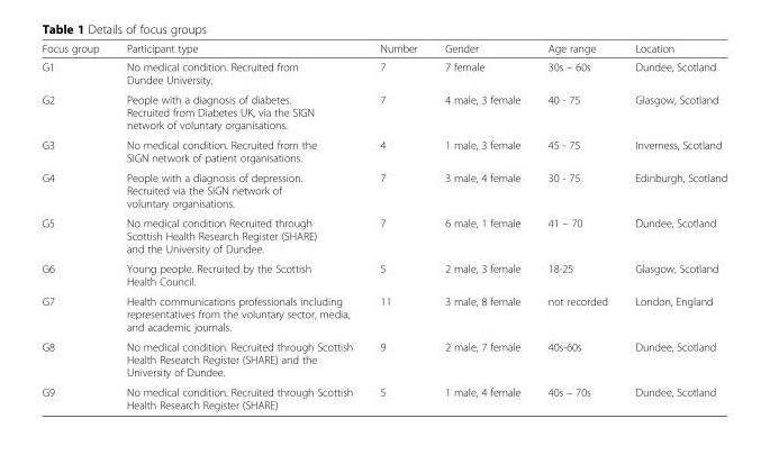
<table><thead><tr><td>Focus group</td><td>Participant type</td><td>Number</td><td>Gender</td><td>Age range</td><td>Location</td></tr></thead><tbody><tr><td>G1</td><td>No medical condition. Recruited from Dundee University.</td><td>7</td><td>7 female</td><td>30s – 60s</td><td>Dundee, Scotland</td></tr><tr><td>G2</td><td>People with a diagnosis of diabetes. Recruited from Diabetes UK, via the SIGN network of voluntary organisations.</td><td>7</td><td>4 male, 3 female</td><td>40 - 75</td><td>Glasgow, Scotland</td></tr><tr><td>G3</td><td>No medical condition. Recruited from the SIGN network of patient organisations.</td><td>4</td><td>1 male, 3 female</td><td>45 - 75</td><td>Inverness, Scotland</td></tr><tr><td>G4</td><td>People with a diagnosis of depression. Recruited via the SIGN network of voluntary organisations.</td><td>7</td><td>3 male, 4 female</td><td>30 - 75</td><td>Edinburgh, Scotland</td></tr><tr><td>G5</td><td>No medical condition Recruited through Scottish Health Research Register (SHARE) and the University of Dundee.</td><td>7</td><td>6 male, 1 female</td><td>41 – 70</td><td>Dundee, Scotland</td></tr><tr><td>G6</td><td>Young people. Recruited by the Scottish Health Council.</td><td>5</td><td>2 male, 3 female</td><td>18-25</td><td>Glasgow, Scotland</td></tr><tr><td>G7</td><td>Health communications professionals including representatives from the voluntary sector, media, and academic journals.</td><td>11</td><td>3 male, 8 female</td><td>not recorded</td><td>London, England</td></tr><tr><td>G8</td><td>No medical condition. Recruited through Scottish Health Research Register (SHARE) and the University of Dundee.</td><td>9</td><td>2 male, 7 female</td><td>40s-60s</td><td>Dundee, Scotland</td></tr><tr><td>G9</td><td>No medical condition. Recruited through Scottish Health Research Register (SHARE)</td><td>5</td><td>1 male, 4 female</td><td>40s – 70s</td><td>Dundee, Scotland</td></tr></tbody></table>